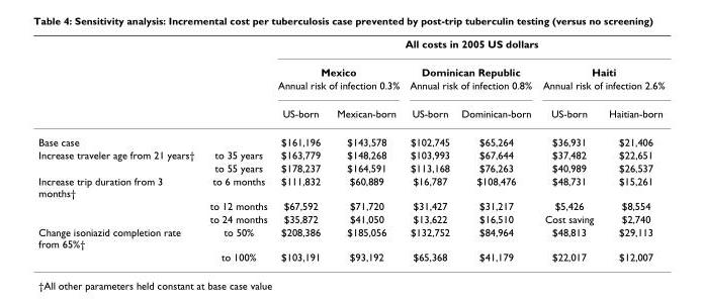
<table><thead><tr><td rowspan="4"></td><td rowspan="4"></td><td colspan="6">All costs in 2005 US dollars</td></tr><tr><td rowspan="2" colspan="2">Mexico Annual risk of infection 0.3%</td><td rowspan="2" colspan="2">Dominican Republic Annual risk of infection 0.8%</td><td rowspan="2" colspan="2">Haiti Annual risk of infection 2.6%</td></tr><tr></tr><tr><td>US-born</td><td>Mexican-born</td><td>US-born</td><td>Dominican-born</td><td>US-born</td><td>Haitian-born</td></tr></thead><tbody><tr><td colspan="2">Base case</td><td>$161,196</td><td>$143,578</td><td>$102,745</td><td>$65,264</td><td>$36,931</td><td>$21,406</td></tr><tr><td rowspan="2">Increase traveler age from 21 years†</td><td>to 35 years</td><td>$163,779</td><td>$148,268</td><td>$103,993</td><td>$67,644</td><td>$37,482</td><td>$22,651</td></tr><tr><td>to 55 years</td><td>$178,237</td><td>$164,591</td><td>$113,168</td><td>$76,263</td><td>$40,989</td><td>$26,537</td></tr><tr><td rowspan="3">Increase trip duration from 3 months†</td><td>to 6 months</td><td>$111,832</td><td>$60,889</td><td>$16,787</td><td>$108,476</td><td>$48,731</td><td>$15,261</td></tr><tr><td>to 12 months</td><td>$67,592</td><td>$71,720</td><td>$31,427</td><td>$31,217</td><td>$5,426</td><td>$8,554</td></tr><tr><td>to 24 months</td><td>$35,872</td><td>$41,050</td><td>$13,622</td><td>$16,510</td><td>Cost saving</td><td>$2,740</td></tr><tr><td rowspan="2">Change isoniazid completion rate from 65%†</td><td>to 50%</td><td>$208,386</td><td>$185,056</td><td>$132,752</td><td>$84,964</td><td>$48,813</td><td>$29,113</td></tr><tr><td>to 100%</td><td>$103,191</td><td>$93,192</td><td>$65,368</td><td>$41,179</td><td>$22,017</td><td>$12,007</td></tr></tbody></table>